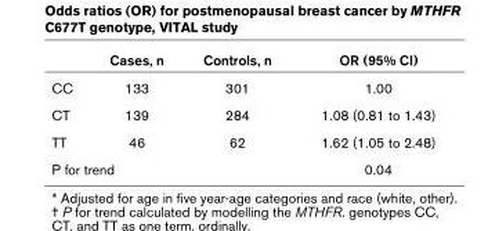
<table><thead><tr><td></td><td>Cases, n</td><td>Controls, n</td><td>OR (95% CI)</td></tr></thead><tbody><tr><td>CC</td><td>133</td><td>301</td><td>1.00</td></tr><tr><td>CT</td><td>139</td><td>284</td><td>1.08 (0.81 to 1.43)</td></tr><tr><td>TT</td><td>46</td><td>62</td><td>1.62 (1.05 to 2.48)</td></tr><tr><td colspan="2">P for trend</td><td></td><td>0.04</td></tr></tbody></table>